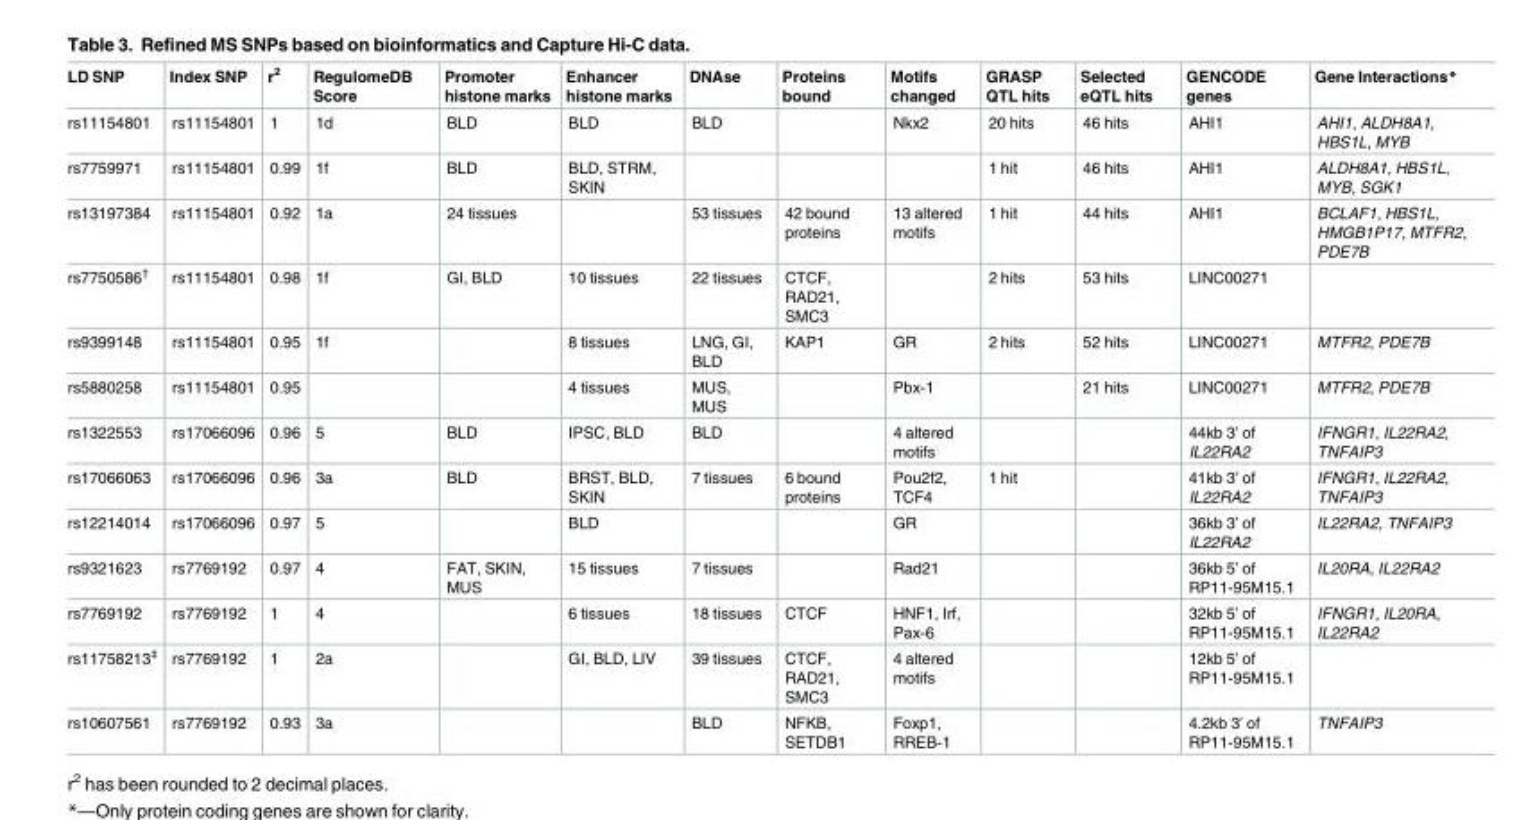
<table><thead><tr><td>LD SNP</td><td>Index SNP</td><td>r<sup>2</sup></td><td>RegulomeDB Score</td><td>Promoter histone marks</td><td>Enhancer histone marks</td><td>DNAse</td><td>Proteins bound</td><td>Motifs changed</td><td>GRASP QTL hits</td><td>Selected eQTL hits</td><td>GENCODE genes</td><td>Gene Interactions*</td></tr></thead><tbody><tr><td>rs11154801</td><td>rs11154801</td><td>1</td><td>1d</td><td>BLD</td><td>BLD</td><td>BLD</td><td></td><td>Nkx2</td><td>20 hits</td><td>46 hits</td><td>AHI1</td><td>AHI1, ALDH8A1, HBS1L, MYB</td></tr><tr><td>rs7759971</td><td>rs11154801</td><td>0.99</td><td>1f</td><td>BLD</td><td>BLD, STRM, SKIN</td><td></td><td></td><td></td><td>1 hit</td><td>46 hits</td><td>AHI1</td><td>ALDH8A1, HBS1L, MYB, SGK1</td></tr><tr><td>rs13197384</td><td>rs11154801</td><td>0.92</td><td>1a</td><td>24 tissues</td><td></td><td>53 tissues</td><td>42 bound proteins</td><td>13 altered motifs</td><td>1 hit</td><td>44 hits</td><td>AHI1</td><td>BCLAF1, HBS1L, HMGB1P17, MTFR2, PDE7B</td></tr><tr><td>rs7750586<sup>†</sup></td><td>rs11154801</td><td>0.98</td><td>1f</td><td>GI, BLD</td><td>10 tissues</td><td>22 tissues</td><td>CTCF, RAD21, SMC3</td><td></td><td>2 hits</td><td>53 hits</td><td>LINC00271</td><td></td></tr><tr><td>rs9399148</td><td>rs11154801</td><td>0.95</td><td>1f</td><td></td><td>8 tissues</td><td>LNG, GI, BLD</td><td>KAP1</td><td>GR</td><td>2 hits</td><td>52 hits</td><td>LINC00271</td><td>MTFR2, PDE7B</td></tr><tr><td>rs5880258</td><td>rs11154801</td><td>0.95</td><td></td><td></td><td>4 tissues</td><td>MUS, MUS</td><td></td><td>Pbx-1</td><td></td><td>21 hits</td><td>LINC00271</td><td>MTFR2, PDE7B</td></tr><tr><td>rs1322553</td><td>rs17066096</td><td>0.96</td><td>5</td><td>BLD</td><td>IPSC, BLD</td><td>BLD</td><td></td><td>4 altered motifs</td><td></td><td></td><td>44kb 3’ of IL22RA2</td><td>IFNGR1, IL22RA2, TNFAIP3</td></tr><tr><td>rs17066063</td><td>rs17066096</td><td>0.96</td><td>3a</td><td>BLD</td><td>BRST, BLD, SKIN</td><td>7 tissues</td><td>6 bound proteins</td><td>Pou2f2, TCF4</td><td>1 hit</td><td></td><td>41kb 3’ of IL22RA2</td><td>IFNGR1, IL22RA2, TNFAIP3</td></tr><tr><td>rs12214014</td><td>rs17066096</td><td>0.97</td><td>5</td><td></td><td>BLD</td><td></td><td></td><td>GR</td><td></td><td></td><td>36kb 3’ of IL22RA2</td><td>IL22RA2, TNFAIP3</td></tr><tr><td>rs9321623</td><td>rs7769192</td><td>0.97</td><td>4</td><td>FAT, SKIN, MUS</td><td>15 tissues</td><td>7 tissues</td><td></td><td>Rad21</td><td></td><td></td><td>36kb 5’ of RP11-95M15.1</td><td>IL20RA, IL22RA2</td></tr><tr><td>rs7769192</td><td>rs7769192</td><td>1</td><td>4</td><td></td><td>6 tissues</td><td>18 tissues</td><td>CTCF</td><td>HNF1, Irf, Pax-6</td><td></td><td></td><td>32kb 5’ of RP11-95M15.1</td><td>IFNGR1, IL20RA, IL22RA2</td></tr><tr><td>rs11758213<sup>‡</sup></td><td>rs7769192</td><td>1</td><td>2a</td><td></td><td>GI, BLD, LIV</td><td>39 tissues</td><td>CTCF, RAD21, SMC3</td><td>4 altered motifs</td><td></td><td></td><td>12kb 5’ of RP11-95M15.1</td><td></td></tr><tr><td>rs10607561</td><td>rs7769192</td><td>0.93</td><td>3a</td><td></td><td></td><td>BLD</td><td>NFKB, SETDB1</td><td>Foxp1, RREB-1</td><td></td><td></td><td>4.2kb 3’ of RP11-95M15.1</td><td>TNFAIP3</td></tr></tbody></table>